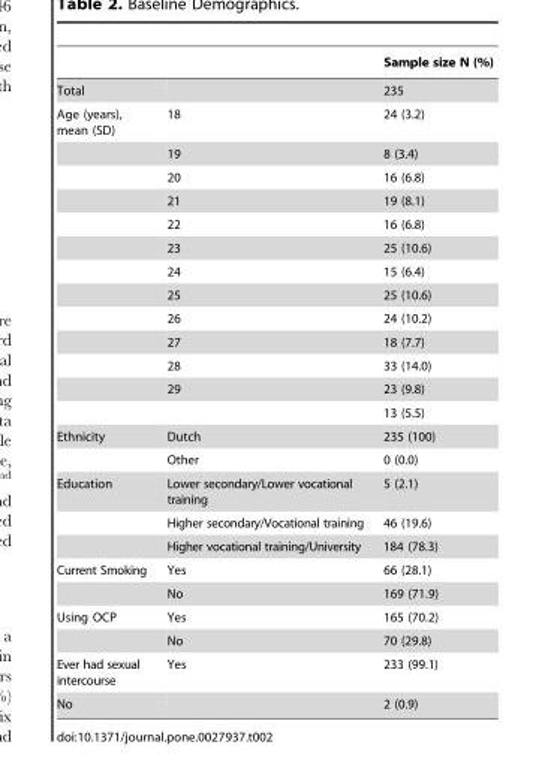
<table><thead><tr><td></td><td></td><td>Sample size N (%)</td></tr></thead><tbody><tr><td>Total</td><td></td><td>235</td></tr><tr><td rowspan="13">Age (years), mean (SD)</td><td>18</td><td>24 (3.2)</td></tr><tr><td>19</td><td>8 (3.4)</td></tr><tr><td>20</td><td>16 (6.8)</td></tr><tr><td>21</td><td>19 (8.1)</td></tr><tr><td>22</td><td>16 (6.8)</td></tr><tr><td>23</td><td>25 (10.6)</td></tr><tr><td>24</td><td>15 (6.4)</td></tr><tr><td>25</td><td>25 (10.6)</td></tr><tr><td>26</td><td>24 (10.2)</td></tr><tr><td>27</td><td>18 (7.7)</td></tr><tr><td>28</td><td>33 (14.0)</td></tr><tr><td>29</td><td>23 (9.8)</td></tr><tr><td></td><td>13 (5.5)</td></tr><tr><td rowspan="2">Ethnicity</td><td>Dutch</td><td>235 (100)</td></tr><tr><td>Other</td><td>0 (0.0)</td></tr><tr><td rowspan="3">Education</td><td>Lower secondary/Lower vocational training</td><td>5 (2.1)</td></tr><tr><td>Higher secondary/Vocational training</td><td>46 (19.6)</td></tr><tr><td>Higher vocational training/University</td><td>184 (78.3)</td></tr><tr><td rowspan="2">Current Smoking</td><td>Yes</td><td>66 (28.1)</td></tr><tr><td>No</td><td>169 (71.9)</td></tr><tr><td rowspan="2">Using OCP</td><td>Yes</td><td>165 (70.2)</td></tr><tr><td>No</td><td>70 (29.8)</td></tr><tr><td>Ever had sexual intercourse</td><td>Yes</td><td>233 (99.1)</td></tr><tr><td>No</td><td></td><td>2 (0.9)</td></tr></tbody></table>